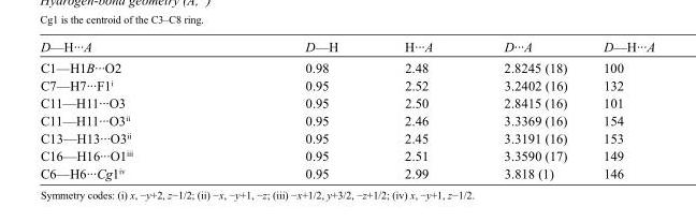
<table><tbody><tr><td>D—H···A</td><td>D—H</td><td>H···A</td><td>D···A</td><td>D—H···A</td></tr><tr><td>C1—H1B···O2</td><td>0.98</td><td>2.48</td><td>2.8245 (18)</td><td>100</td></tr><tr><td>C7—H7···F1<sup>i</sup></td><td>0.95</td><td>2.52</td><td>3.2402 (16)</td><td>132</td></tr><tr><td>C11—H11···O3</td><td>0.95</td><td>2.50</td><td>2.8415 (16)</td><td>101</td></tr><tr><td>C11—H11···O3<sup>ii</sup></td><td>0.95</td><td>2.46</td><td>3.3369 (16)</td><td>154</td></tr><tr><td>C13—H13···O3<sup>ii</sup></td><td>0.95</td><td>2.45</td><td>3.3191 (16)</td><td>153</td></tr><tr><td>C16—H16···O1<sup>iii</sup></td><td>0.95</td><td>2.51</td><td>3.3590 (17)</td><td>149</td></tr><tr><td>C6—H6···Cg1<sup>iv</sup></td><td>0.95</td><td>2.99</td><td>3.818 (1)</td><td>146</td></tr></tbody></table>